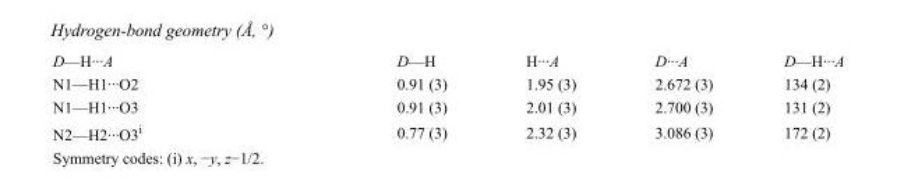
<table><tbody><tr><td>D—H···A</td><td>D—H</td><td>H···A</td><td>D···A</td><td>D—H···A</td></tr><tr><td>N1—H1···O2</td><td>0.91 (3)</td><td>1.95 (3)</td><td>2.672 (3)</td><td>134 (2)</td></tr><tr><td>N1—H1···O3</td><td>0.91 (3)</td><td>2.01 (3)</td><td>2.700 (3)</td><td>131 (2)</td></tr><tr><td>N2—H2···O3<sup>i</sup></td><td>0.77 (3)</td><td>2.32 (3)</td><td>3.086 (3)</td><td>172 (2)</td></tr></tbody></table>